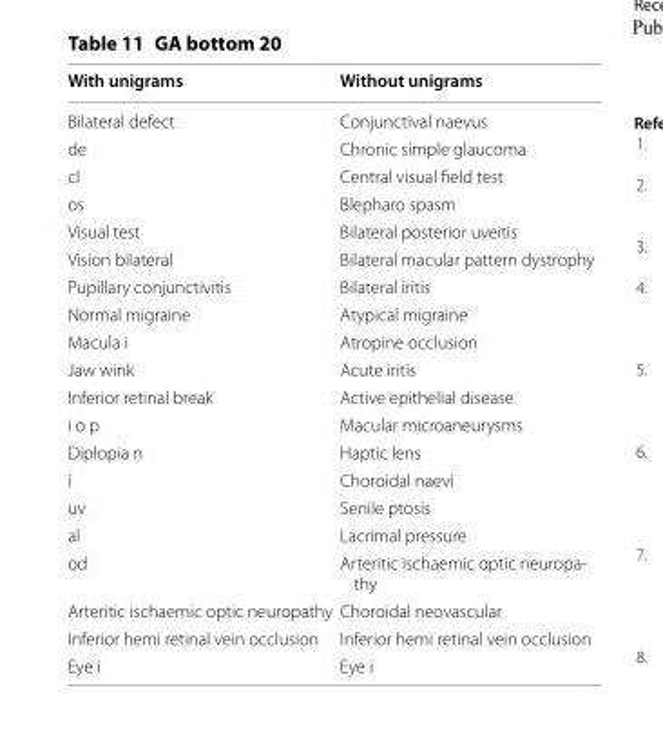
<table><thead><tr><td>With unigrams</td><td>Without unigrams</td></tr></thead><tbody><tr><td>Bilateral defect</td><td>Conjunctival naevus</td></tr><tr><td>de</td><td>Chronic simple glaucoma</td></tr><tr><td>cl</td><td>Central visual field test</td></tr><tr><td>os</td><td>Blepharo spasm</td></tr><tr><td>Visual test</td><td>Bilateral posterior uveitis</td></tr><tr><td>Vision bilateral</td><td>Bilateral macular pattern dystrophy</td></tr><tr><td>Pupillary conjunctivitis</td><td>Bilateral iritis</td></tr><tr><td>Normal migraine</td><td>Atypical migraine</td></tr><tr><td>Macula i</td><td>Atropine occlusion</td></tr><tr><td>Jaw wink</td><td>Acute iritis</td></tr><tr><td>Inferior retinal break</td><td>Active epithelial disease</td></tr><tr><td>i o p</td><td>Macular microaneurysms</td></tr><tr><td>Diplopia n</td><td>Haptic lens</td></tr><tr><td>i</td><td>Choroidal naevi</td></tr><tr><td>uv</td><td>Senile ptosis</td></tr><tr><td>al</td><td>Lacrimal pressure</td></tr><tr><td>od</td><td>Arteritic ischaemic optic neuropa- thy</td></tr><tr><td>Arteritic ischaemic optic neuropathy</td><td>Choroidal neovascular</td></tr><tr><td>Inferior hemi retinal vein occlusion</td><td>Inferior hemi retinal vein occlusion</td></tr><tr><td>Eye i</td><td>Eye i</td></tr></tbody></table>